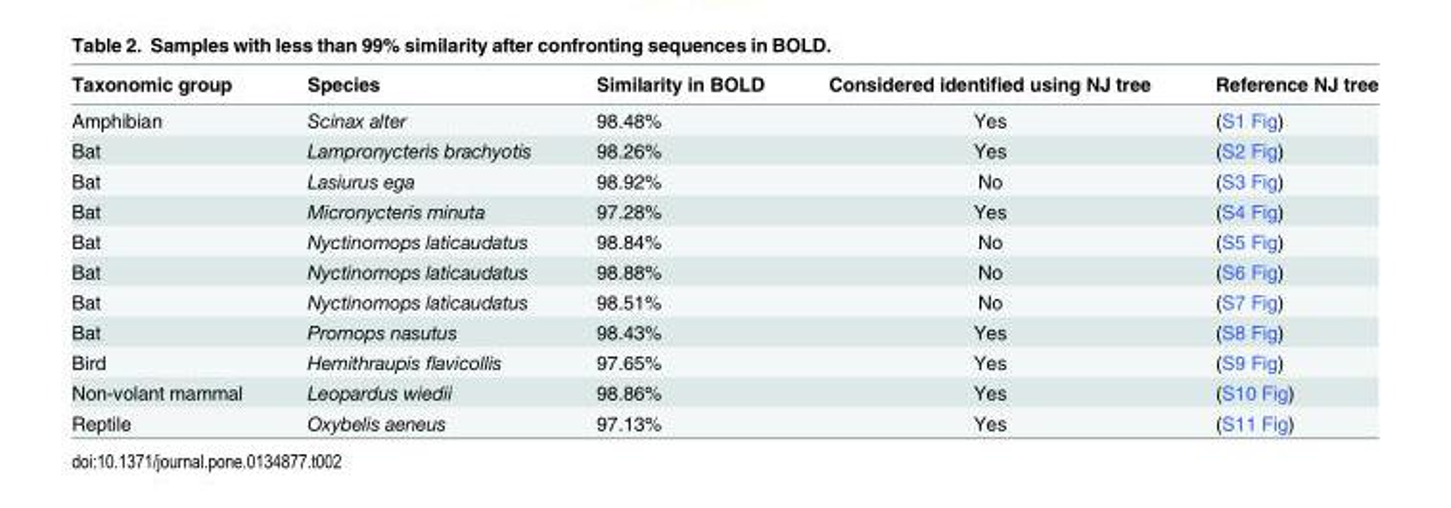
<table><thead><tr><td>Taxonomic group</td><td>Species</td><td>Similarity in BOLD</td><td>Considered identified using NJ tree</td><td>Reference NJ tree</td></tr></thead><tbody><tr><td>Amphibian</td><td>Scinax alter</td><td>98.48%</td><td>Yes</td><td>(S1 Fig)</td></tr><tr><td>Bat</td><td>Lampronycteris brachyotis</td><td>98.26%</td><td>Yes</td><td>(S2 Fig)</td></tr><tr><td>Bat</td><td>Lasiurus ega</td><td>98.92%</td><td>No</td><td>(S3 Fig)</td></tr><tr><td>Bat</td><td>Micronycteris minuta</td><td>97.28%</td><td>Yes</td><td>(S4 Fig)</td></tr><tr><td>Bat</td><td>Nyctinomops laticaudatus</td><td>98.84%</td><td>No</td><td>(S5 Fig)</td></tr><tr><td>Bat</td><td>Nyctinomops laticaudatus</td><td>98.88%</td><td>No</td><td>(S6 Fig)</td></tr><tr><td>Bat</td><td>Nyctinomops laticaudatus</td><td>98.51%</td><td>No</td><td>(S7 Fig)</td></tr><tr><td>Bat</td><td>Promops nasutus</td><td>98.43%</td><td>Yes</td><td>(S8 Fig)</td></tr><tr><td>Bird</td><td>Hemithraupis flavicollis</td><td>97.65%</td><td>Yes</td><td>(S9 Fig)</td></tr><tr><td>Non-volant mammal</td><td>Leopardus wiedii</td><td>98.86%</td><td>Yes</td><td>(S10 Fig)</td></tr><tr><td>Reptile</td><td>Oxybelis aeneus</td><td>97.13%</td><td>Yes</td><td>(S11 Fig)</td></tr></tbody></table>